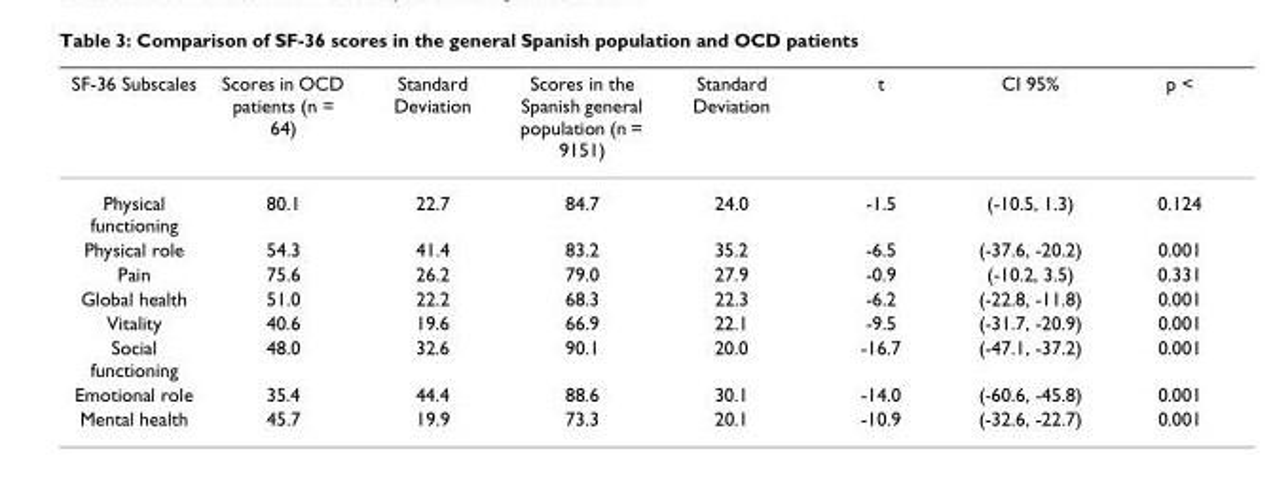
<table><thead><tr><td>SF-36 Subscales</td><td>Scores in OCD patients (n = 64)</td><td>Standard Deviation</td><td>Scores in the Spanish general population (n = 9151)</td><td>Standard Deviation</td><td>t</td><td>CI 95%</td><td>p &lt;</td></tr></thead><tbody><tr><td>Physical functioning</td><td>80.1</td><td>22.7</td><td>84.7</td><td>24.0</td><td>-1.5</td><td>(-10.5, 1.3)</td><td>0.124</td></tr><tr><td>Physical role</td><td>54.3</td><td>41.4</td><td>83.2</td><td>35.2</td><td>-6.5</td><td>(-37.6, -20.2)</td><td>0.001</td></tr><tr><td>Pain</td><td>75.6</td><td>26.2</td><td>79.0</td><td>27.9</td><td>-0.9</td><td>(-10.2, 3.5)</td><td>0.331</td></tr><tr><td>Global health</td><td>51.0</td><td>22.2</td><td>68.3</td><td>22.3</td><td>-6.2</td><td>(-22.8, -11.8)</td><td>0.001</td></tr><tr><td>Vitality</td><td>40.6</td><td>19.6</td><td>66.9</td><td>22.1</td><td>-9.5</td><td>(-31.7, -20.9)</td><td>0.001</td></tr><tr><td>Social functioning</td><td>48.0</td><td>32.6</td><td>90.1</td><td>20.0</td><td>-16.7</td><td>(-47.1, -37.2)</td><td>0.001</td></tr><tr><td>Emotional role</td><td>35.4</td><td>44.4</td><td>88.6</td><td>30.1</td><td>-14.0</td><td>(-60.6, -45.8)</td><td>0.001</td></tr><tr><td>Mental health</td><td>45.7</td><td>19.9</td><td>73.3</td><td>20.1</td><td>-10.9</td><td>(-32.6, -22.7)</td><td>0.001</td></tr></tbody></table>